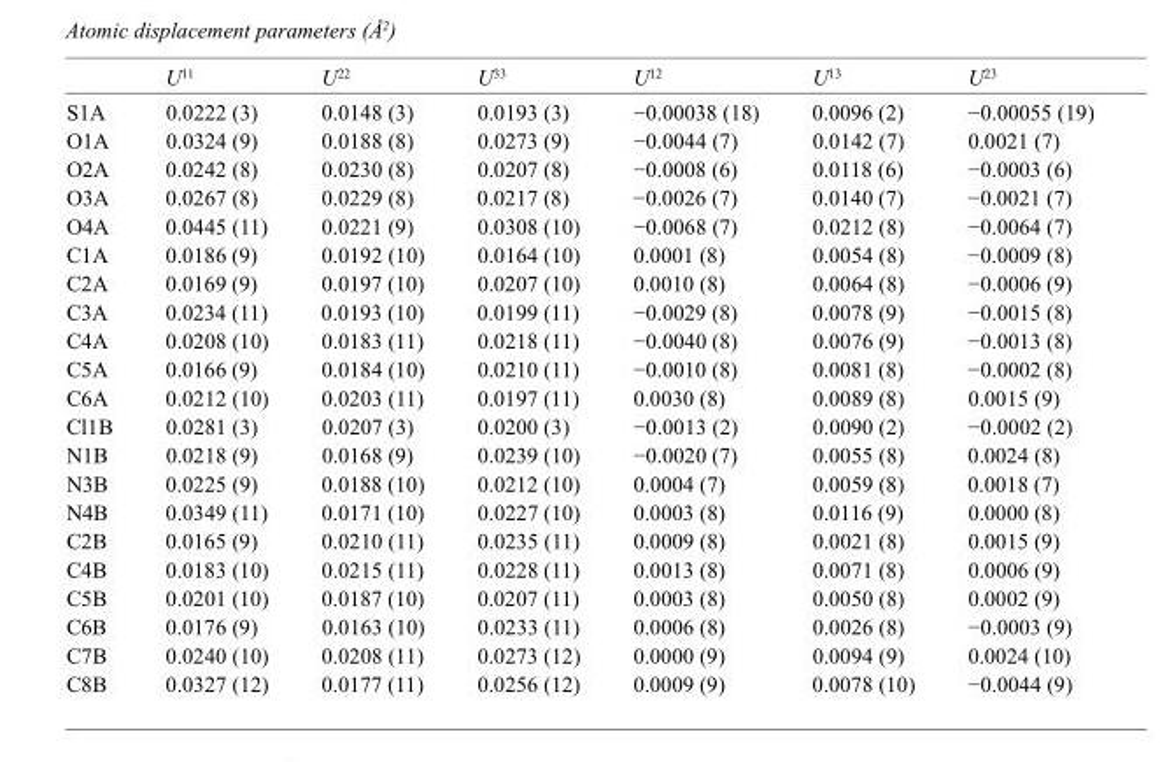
<table><thead><tr><td></td><td>U<sup>11</sup></td><td>U<sup>22</sup></td><td>U<sup>33</sup></td><td>U<sup>12</sup></td><td>U<sup>13</sup></td><td>U<sup>23</sup></td></tr></thead><tbody><tr><td>S1A</td><td>0.0222 (3)</td><td>0.0148 (3)</td><td>0.0193 (3)</td><td>−0.00038 (18)</td><td>0.0096 (2)</td><td>−0.00055 (19)</td></tr><tr><td>O1A</td><td>0.0324 (9)</td><td>0.0188 (8)</td><td>0.0273 (9)</td><td>−0.0044 (7)</td><td>0.0142 (7)</td><td>0.0021 (7)</td></tr><tr><td>O2A</td><td>0.0242 (8)</td><td>0.0230 (8)</td><td>0.0207 (8)</td><td>−0.0008 (6)</td><td>0.0118 (6)</td><td>−0.0003 (6)</td></tr><tr><td>O3A</td><td>0.0267 (8)</td><td>0.0229 (8)</td><td>0.0217 (8)</td><td>−0.0026 (7)</td><td>0.0140 (7)</td><td>−0.0021 (7)</td></tr><tr><td>O4A</td><td>0.0445 (11)</td><td>0.0221 (9)</td><td>0.0308 (10)</td><td>−0.0068 (7)</td><td>0.0212 (8)</td><td>−0.0064 (7)</td></tr><tr><td>C1A</td><td>0.0186 (9)</td><td>0.0192 (10)</td><td>0.0164 (10)</td><td>0.0001 (8)</td><td>0.0054 (8)</td><td>−0.0009 (8)</td></tr><tr><td>C2A</td><td>0.0169 (9)</td><td>0.0197 (10)</td><td>0.0207 (10)</td><td>0.0010 (8)</td><td>0.0064 (8)</td><td>−0.0006 (9)</td></tr><tr><td>C3A</td><td>0.0234 (11)</td><td>0.0193 (10)</td><td>0.0199 (11)</td><td>−0.0029 (8)</td><td>0.0078 (9)</td><td>−0.0015 (8)</td></tr><tr><td>C4A</td><td>0.0208 (10)</td><td>0.0183 (11)</td><td>0.0218 (11)</td><td>−0.0040 (8)</td><td>0.0076 (9)</td><td>−0.0013 (8)</td></tr><tr><td>C5A</td><td>0.0166 (9)</td><td>0.0184 (10)</td><td>0.0210 (11)</td><td>−0.0010 (8)</td><td>0.0081 (8)</td><td>−0.0002 (8)</td></tr><tr><td>C6A</td><td>0.0212 (10)</td><td>0.0203 (11)</td><td>0.0197 (11)</td><td>0.0030 (8)</td><td>0.0089 (8)</td><td>0.0015 (9)</td></tr><tr><td>Cl1B</td><td>0.0281 (3)</td><td>0.0207 (3)</td><td>0.0200 (3)</td><td>−0.0013 (2)</td><td>0.0090 (2)</td><td>−0.0002 (2)</td></tr><tr><td>N1B</td><td>0.0218 (9)</td><td>0.0168 (9)</td><td>0.0239 (10)</td><td>−0.0020 (7)</td><td>0.0055 (8)</td><td>0.0024 (8)</td></tr><tr><td>N3B</td><td>0.0225 (9)</td><td>0.0188 (10)</td><td>0.0212 (10)</td><td>0.0004 (7)</td><td>0.0059 (8)</td><td>0.0018 (7)</td></tr><tr><td>N4B</td><td>0.0349 (11)</td><td>0.0171 (10)</td><td>0.0227 (10)</td><td>0.0003 (8)</td><td>0.0116 (9)</td><td>0.0000 (8)</td></tr><tr><td>C2B</td><td>0.0165 (9)</td><td>0.0210 (11)</td><td>0.0235 (11)</td><td>0.0009 (8)</td><td>0.0021 (8)</td><td>0.0015 (9)</td></tr><tr><td>C4B</td><td>0.0183 (10)</td><td>0.0215 (11)</td><td>0.0228 (11)</td><td>0.0013 (8)</td><td>0.0071 (8)</td><td>0.0006 (9)</td></tr><tr><td>C5B</td><td>0.0201 (10)</td><td>0.0187 (10)</td><td>0.0207 (11)</td><td>0.0003 (8)</td><td>0.0050 (8)</td><td>0.0002 (9)</td></tr><tr><td>C6B</td><td>0.0176 (9)</td><td>0.0163 (10)</td><td>0.0233 (11)</td><td>0.0006 (8)</td><td>0.0026 (8)</td><td>−0.0003 (9)</td></tr><tr><td>C7B</td><td>0.0240 (10)</td><td>0.0208 (11)</td><td>0.0273 (12)</td><td>0.0000 (9)</td><td>0.0094 (9)</td><td>0.0024 (10)</td></tr><tr><td>C8B</td><td>0.0327 (12)</td><td>0.0177 (11)</td><td>0.0256 (12)</td><td>0.0009 (9)</td><td>0.0078 (10)</td><td>−0.0044 (9)</td></tr></tbody></table>